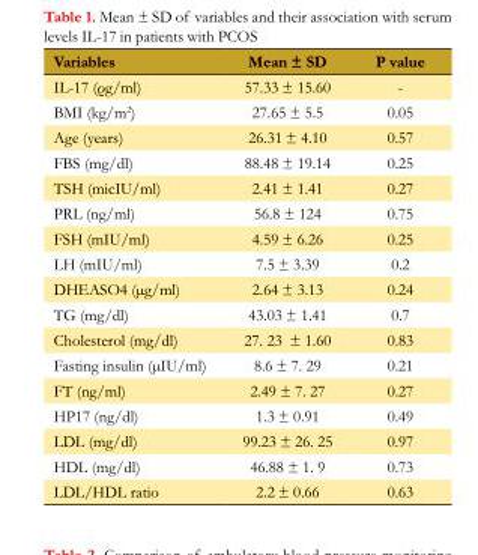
<table><tbody><tr><td>Variables</td><td>Mean ± SD</td><td>P value</td></tr><tr><td>IL-17 (ρg/ml)</td><td>57.33 ± 15.60</td><td>-</td></tr><tr><td>BMI (kg/m<sup>2</sup>)</td><td>27.65 ± 5.5</td><td>0.05</td></tr><tr><td>Age (years)</td><td>26.31 ± 4.10</td><td>0.57</td></tr><tr><td>FBS (mg/dl)</td><td>88.48 ± 19.14</td><td>0.25</td></tr><tr><td>TSH (micIU/ml)</td><td>2.41 ± 1.41</td><td>0.27</td></tr><tr><td>PRL (ng/ml)</td><td>56.8 ± 124</td><td>0.75</td></tr><tr><td>FSH (mIU/ml)</td><td>4.59 ± 6.26</td><td>0.25</td></tr><tr><td>LH (mIU/ml)</td><td>7.5 ± 3.39</td><td>0.2</td></tr><tr><td>DHEASO4 (µg/ml)</td><td>2.64 ± 3.13</td><td>0.24</td></tr><tr><td>TG (mg/dl)</td><td>43.03 ± 1.41</td><td>0.7</td></tr><tr><td>Cholesterol (mg/dl)</td><td>27. 23 ± 1.60</td><td>0.83</td></tr><tr><td>Fasting insulin (µIU/ml)</td><td>8.6 ± 7. 29</td><td>0.21</td></tr><tr><td>FT (ng/ml)</td><td>2.49 ± 7. 27</td><td>0.27</td></tr><tr><td>HP17 (ng/dl)</td><td>1.3 ± 0.91</td><td>0.49</td></tr><tr><td>LDL (mg/dl)</td><td>99.23 ± 26. 25</td><td>0.97</td></tr><tr><td>HDL (mg/dl)</td><td>46.88 ± 1. 9</td><td>0.73</td></tr><tr><td>LDL/HDL ratio</td><td>2.2 ± 0.66</td><td>0.63</td></tr></tbody></table>